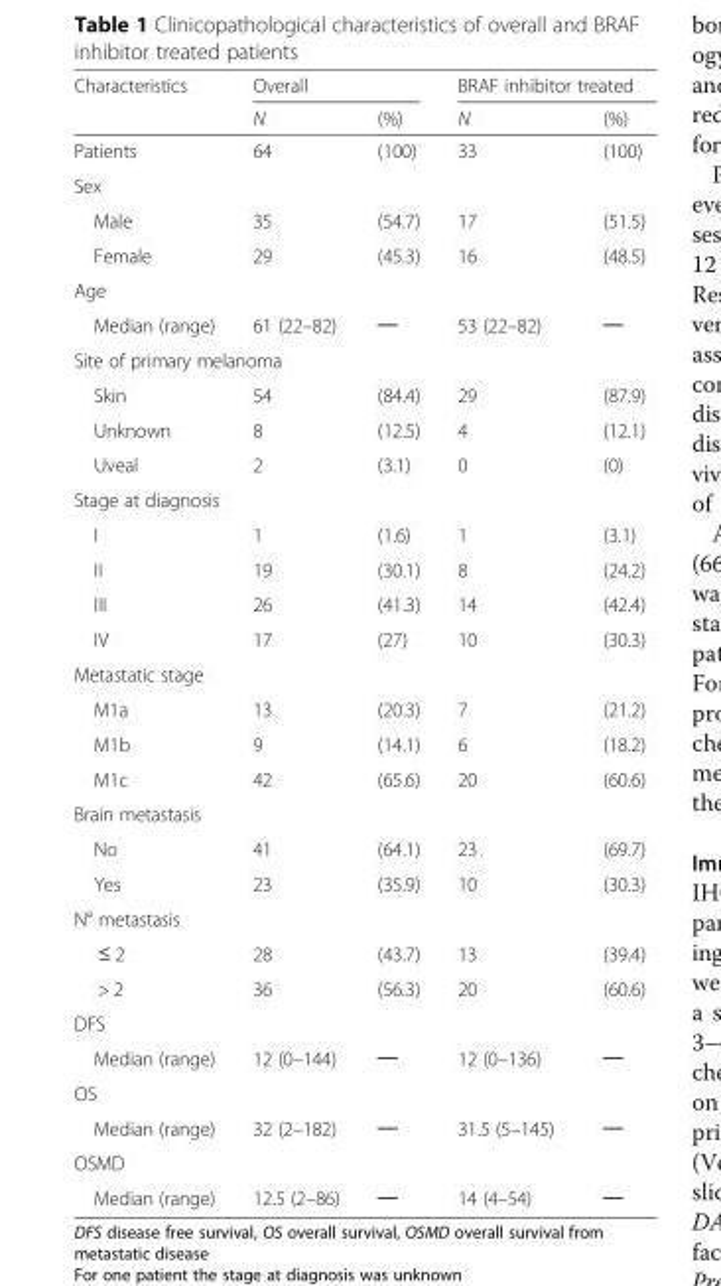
<table><thead><tr><td rowspan="2">Characteristics</td><td colspan="2">Overall</td><td colspan="2">BRAF inhibitor treated</td></tr><tr><td>N</td><td>(%)</td><td>N</td><td>(%)</td></tr></thead><tbody><tr><td>Patients</td><td>64</td><td>(100)</td><td>33</td><td>(100)</td></tr><tr><td colspan="5">Sex</td></tr><tr><td>Male</td><td>35</td><td>(54.7)</td><td>17</td><td>(51.5)</td></tr><tr><td>Female</td><td>29</td><td>(45.3)</td><td>16</td><td>(48.5)</td></tr><tr><td colspan="5">Age</td></tr><tr><td>Median (range)</td><td>61 (22–82)</td><td>─</td><td>53 (22–82)</td><td>─</td></tr><tr><td colspan="5">Site of primary melanoma</td></tr><tr><td>Skin</td><td>54</td><td>(84.4)</td><td>29</td><td>(87.9)</td></tr><tr><td>Unknown</td><td>8</td><td>(12.5)</td><td>4</td><td>(12.1)</td></tr><tr><td>Uveal</td><td>2</td><td>(3.1)</td><td>0</td><td>(0)</td></tr><tr><td colspan="5">Stage at diagnosis</td></tr><tr><td>I</td><td>1</td><td>(1.6)</td><td>1</td><td>(3.1)</td></tr><tr><td>II</td><td>19</td><td>(30.1)</td><td>8</td><td>(24.2)</td></tr><tr><td>III</td><td>26</td><td>(41.3)</td><td>14</td><td>(42.4)</td></tr><tr><td>IV</td><td>17</td><td>(27)</td><td>10</td><td>(30.3)</td></tr><tr><td colspan="5">Metastatic stage</td></tr><tr><td>M1a</td><td>13</td><td>(20.3)</td><td>7</td><td>(21.2)</td></tr><tr><td>M1b</td><td>9</td><td>(14.1)</td><td>6</td><td>(18.2)</td></tr><tr><td>M1c</td><td>42</td><td>(65.6)</td><td>20</td><td>(60.6)</td></tr><tr><td colspan="5">Brain metastasis</td></tr><tr><td>No</td><td>41</td><td>(64.1)</td><td>23</td><td>(69.7)</td></tr><tr><td>Yes</td><td>23</td><td>(35.9)</td><td>10</td><td>(30.3)</td></tr><tr><td colspan="5">N° metastasis</td></tr><tr><td>≤ 2</td><td>28</td><td>(43.7)</td><td>13</td><td>(39.4)</td></tr><tr><td>&gt; 2</td><td>36</td><td>(56.3)</td><td>20</td><td>(60.6)</td></tr><tr><td colspan="5">DFS</td></tr><tr><td>Median (range)</td><td>12 (0–144)</td><td>─</td><td>12 (0–136)</td><td>─</td></tr><tr><td colspan="5">OS</td></tr><tr><td>Median (range)</td><td>32 (2–182)</td><td>─</td><td>31.5 (5–145)</td><td>─</td></tr><tr><td colspan="5">OSMD</td></tr><tr><td>Median (range)</td><td>12.5 (2–86)</td><td>─</td><td>14 (4–54)</td><td>─</td></tr></tbody></table>